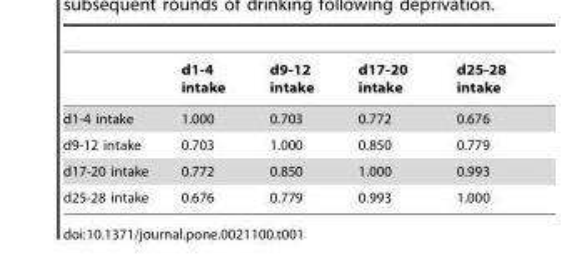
<table><thead><tr><td></td><td>d1-4 intake</td><td>d9-12 intake</td><td>d17-20 intake</td><td>d25-28 intake</td></tr></thead><tbody><tr><td>d1-4 intake</td><td>1.000</td><td>0.703</td><td>0.772</td><td>0.676</td></tr><tr><td>d9-12 intake</td><td>0.703</td><td>1.000</td><td>0.850</td><td>0.779</td></tr><tr><td>d17-20 intake</td><td>0.772</td><td>0.850</td><td>1.000</td><td>0.993</td></tr><tr><td>d25-28 intake</td><td>0.676</td><td>0.779</td><td>0.993</td><td>1.000</td></tr></tbody></table>